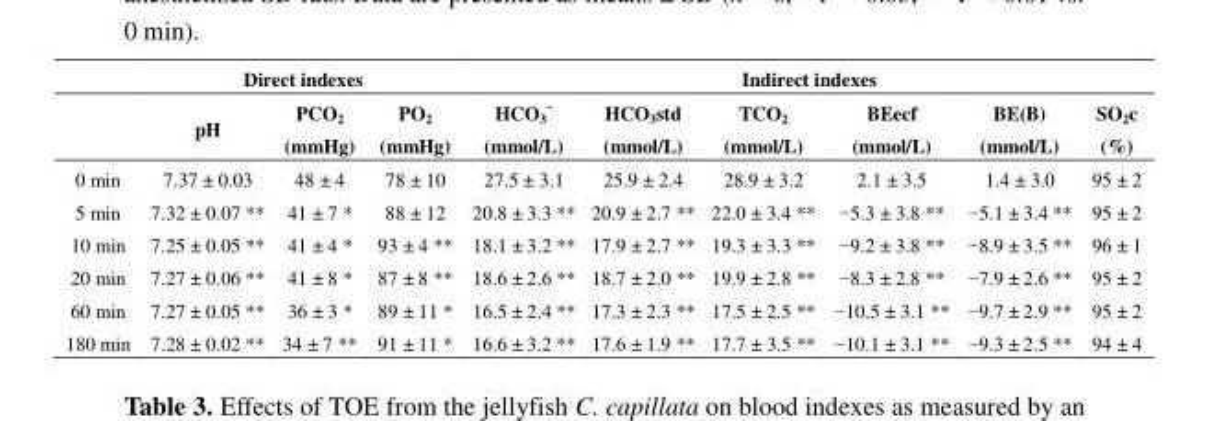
<table><thead><tr><td rowspan="2"></td><td colspan="3">Direct indexes</td><td colspan="6">Indirect indexes</td></tr><tr><td>pH</td><td>PCO<sub>2</sub> (mmHg)</td><td>PO<sub>2</sub> (mmHg)</td><td>HCO<sub>3</sub> <sup>−</sup> (mmol/L)</td><td>HCO<sub>3</sub>std (mmol/L)</td><td>TCO<sub>2</sub> (mmol/L)</td><td>BEecf (mmol/L)</td><td>BE(B) (mmol/L)</td><td>SO<sub>2</sub>c (%)</td></tr></thead><tbody><tr><td>0 min</td><td>7.37 ± 0.03</td><td>48 ± 4</td><td>78 ± 10</td><td>27.5 ± 3.1</td><td>25.9 ± 2.4</td><td>28.9 ± 3.2</td><td>2.1 ± 3.5</td><td>1.4 ± 3.0</td><td>95 ± 2</td></tr><tr><td>5 min</td><td>7.32 ± 0.07 **</td><td>41 ± 7 *</td><td>88 ± 12</td><td>20.8 ± 3.3 **</td><td>20.9 ± 2.7 **</td><td>22.0 ± 3.4 **</td><td>−5.3 ± 3.8 **</td><td>−5.1 ± 3.4 **</td><td>95 ± 2</td></tr><tr><td>10 min</td><td>7.25 ± 0.05 **</td><td>41 ± 4 *</td><td>93 ± 4 **</td><td>18.1 ± 3.2 **</td><td>17.9 ± 2.7 **</td><td>19.3 ± 3.3 **</td><td>−9.2 ± 3.8 **</td><td>−8.9 ± 3.5 **</td><td>96 ± 1</td></tr><tr><td>20 min</td><td>7.27 ± 0.06 **</td><td>41 ± 8 *</td><td>87 ± 8 **</td><td>18.6 ± 2.6 **</td><td>18.7 ± 2.0 **</td><td>19.9 ± 2.8 **</td><td>−8.3 ± 2.8 **</td><td>−7.9 ± 2.6 **</td><td>95 ± 2</td></tr><tr><td>60 min</td><td>7.27 ± 0.05 **</td><td>36 ± 3 *</td><td>89 ± 11 *</td><td>16.5 ± 2.4 **</td><td>17.3 ± 2.3 **</td><td>17.5 ± 2.5 **</td><td>−10.5 ± 3.1 **</td><td>−9.7 ± 2.9 **</td><td>95 ± 2</td></tr><tr><td>180 min</td><td>7.28 ± 0.02 **</td><td>34 ± 7 **</td><td>91 ± 11 *</td><td>16.6 ± 3.2 **</td><td>17.6 ± 1.9 **</td><td>17.7 ± 3.5 **</td><td>−10.1 ± 3.1 **</td><td>−9.3 ± 2.5 **</td><td>94 ± 4</td></tr></tbody></table>